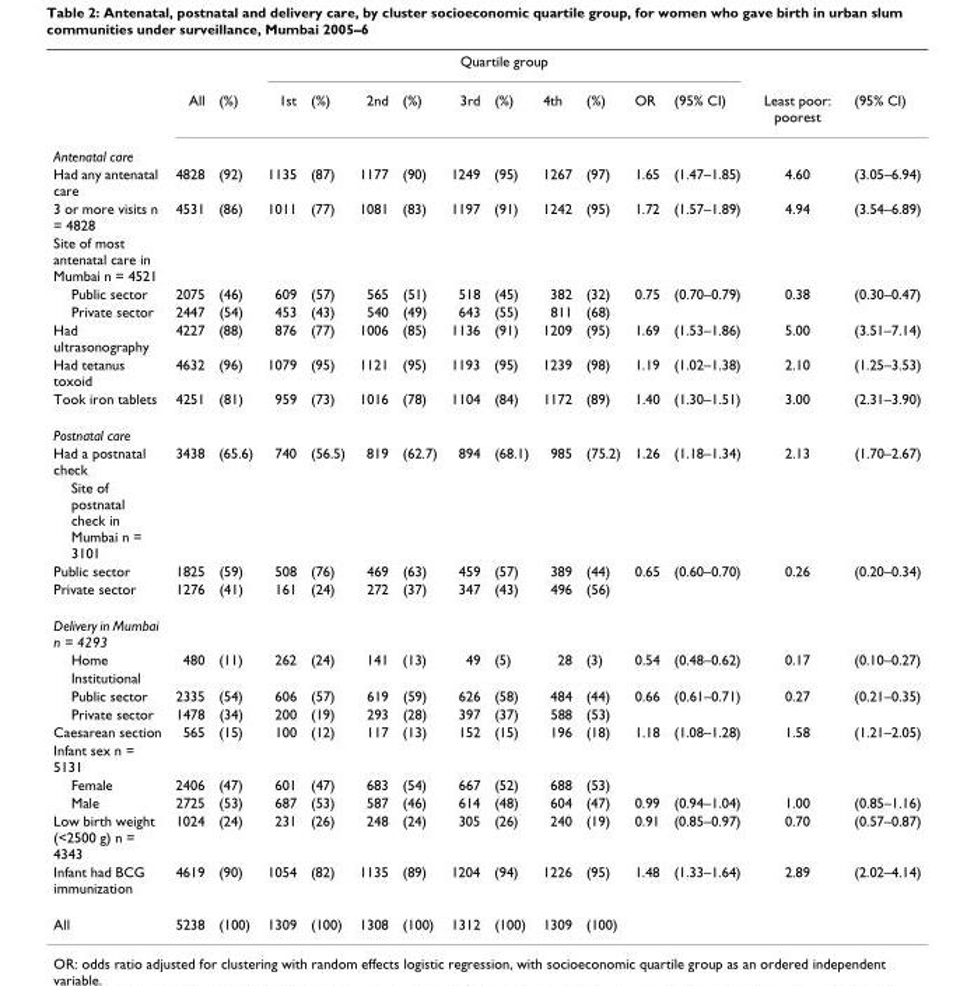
<table><thead><tr><td rowspan="2"></td><td rowspan="2">All</td><td rowspan="2">(%)</td><td colspan="10">Quartile group</td><td rowspan="2">Least poor: poorest</td><td rowspan="2">(95% CI)</td></tr><tr><td>1st</td><td>(%)</td><td>2nd</td><td>(%)</td><td>3rd</td><td>(%)</td><td>4th</td><td>(%)</td><td>OR</td><td>(95% CI)</td></tr></thead><tbody><tr><td colspan="15">Antenatal care</td></tr><tr><td>Had any antenatal care</td><td>4828</td><td>(92)</td><td>1135</td><td>(87)</td><td>1177</td><td>(90)</td><td>1249</td><td>(95)</td><td>1267</td><td>(97)</td><td>1.65</td><td>(1.47–1.85)</td><td>4.60</td><td>(3.05–6.94)</td></tr><tr><td>3 or more visits n = 4828</td><td>4531</td><td>(86)</td><td>1011</td><td>(77)</td><td>1081</td><td>(83)</td><td>1197</td><td>(91)</td><td>1242</td><td>(95)</td><td>1.72</td><td>(1.57–1.89)</td><td>4.94</td><td>(3.54–6.89)</td></tr><tr><td colspan="15">Site of most antenatal care in Mumbai n = 4521</td></tr><tr><td>Public sector</td><td>2075</td><td>(46)</td><td>609</td><td>(57)</td><td>565</td><td>(51)</td><td>518</td><td>(45)</td><td>382</td><td>(32)</td><td>0.75</td><td>(0.70–0.79)</td><td>0.38</td><td>(0.30–0.47)</td></tr><tr><td>Private sector</td><td>2447</td><td>(54)</td><td>453</td><td>(43)</td><td>540</td><td>(49)</td><td>643</td><td>(55)</td><td>811</td><td>(68)</td><td></td><td></td><td></td><td></td></tr><tr><td>Had ultrasonography</td><td>4227</td><td>(88)</td><td>876</td><td>(77)</td><td>1006</td><td>(85)</td><td>1136</td><td>(91)</td><td>1209</td><td>(95)</td><td>1.69</td><td>(1.53–1.86)</td><td>5.00</td><td>(3.51–7.14)</td></tr><tr><td>Had tetanus toxoid</td><td>4632</td><td>(96)</td><td>1079</td><td>(95)</td><td>1121</td><td>(95)</td><td>1193</td><td>(95)</td><td>1239</td><td>(98)</td><td>1.19</td><td>(1.02–1.38)</td><td>2.10</td><td>(1.25–3.53)</td></tr><tr><td>Took iron tablets</td><td>4251</td><td>(81)</td><td>959</td><td>(73)</td><td>1016</td><td>(78)</td><td>1104</td><td>(84)</td><td>1172</td><td>(89)</td><td>1.40</td><td>(1.30–1.51)</td><td>3.00</td><td>(2.31–3.90)</td></tr><tr><td colspan="15">Postnatal care</td></tr><tr><td>Had a postnatal check</td><td>3438</td><td>(65.6)</td><td>740</td><td>(56.5)</td><td>819</td><td>(62.7)</td><td>894</td><td>(68.1)</td><td>985</td><td>(75.2)</td><td>1.26</td><td>(1.18–1.34)</td><td>2.13</td><td>(1.70–2.67)</td></tr><tr><td colspan="15">Site of postnatal check in Mumbai n = 3101</td></tr><tr><td>Public sector</td><td>1825</td><td>(59)</td><td>508</td><td>(76)</td><td>469</td><td>(63)</td><td>459</td><td>(57)</td><td>389</td><td>(44)</td><td>0.65</td><td>(0.60–0.70)</td><td>0.26</td><td>(0.20–0.34)</td></tr><tr><td>Private sector</td><td>1276</td><td>(41)</td><td>161</td><td>(24)</td><td>272</td><td>(37)</td><td>347</td><td>(43)</td><td>496</td><td>(56)</td><td></td><td></td><td></td><td></td></tr><tr><td colspan="15">Delivery in Mumbai n = 4293</td></tr><tr><td>Home</td><td>480</td><td>(11)</td><td>262</td><td>(24)</td><td>141</td><td>(13)</td><td>49</td><td>(5)</td><td>28</td><td>(3)</td><td>0.54</td><td>(0.48–0.62)</td><td>0.17</td><td>(0.10–0.27)</td></tr><tr><td colspan="15">Institutional</td></tr><tr><td>Public sector</td><td>2335</td><td>(54)</td><td>606</td><td>(57)</td><td>619</td><td>(59)</td><td>626</td><td>(58)</td><td>484</td><td>(44)</td><td>0.66</td><td>(0.61–0.71)</td><td>0.27</td><td>(0.21–0.35)</td></tr><tr><td>Private sector</td><td>1478</td><td>(34)</td><td>200</td><td>(19)</td><td>293</td><td>(28)</td><td>397</td><td>(37)</td><td>588</td><td>(53)</td><td></td><td></td><td></td><td></td></tr><tr><td>Caesarean section</td><td>565</td><td>(15)</td><td>100</td><td>(12)</td><td>117</td><td>(13)</td><td>152</td><td>(15)</td><td>196</td><td>(18)</td><td>1.18</td><td>(1.08–1.28)</td><td>1.58</td><td>(1.21–2.05)</td></tr><tr><td colspan="15">Infant sex n = 5131</td></tr><tr><td>Female</td><td>2406</td><td>(47)</td><td>601</td><td>(47)</td><td>683</td><td>(54)</td><td>667</td><td>(52)</td><td>688</td><td>(53)</td><td></td><td></td><td></td><td></td></tr><tr><td>Male</td><td>2725</td><td>(53)</td><td>687</td><td>(53)</td><td>587</td><td>(46)</td><td>614</td><td>(48)</td><td>604</td><td>(47)</td><td>0.99</td><td>(0.94–1.04)</td><td>1.00</td><td>(0.85–1.16)</td></tr><tr><td>Low birth weight (&lt;2500 g) n = 4343</td><td>1024</td><td>(24)</td><td>231</td><td>(26)</td><td>248</td><td>(24)</td><td>305</td><td>(26)</td><td>240</td><td>(19)</td><td>0.91</td><td>(0.85–0.97)</td><td>0.70</td><td>(0.57–0.87)</td></tr><tr><td>Infant had BCG immunization</td><td>4619</td><td>(90)</td><td>1054</td><td>(82)</td><td>1135</td><td>(89)</td><td>1204</td><td>(94)</td><td>1226</td><td>(95)</td><td>1.48</td><td>(1.33–1.64)</td><td>2.89</td><td>(2.02–4.14)</td></tr><tr><td>All</td><td>5238</td><td>(100)</td><td>1309</td><td>(100)</td><td>1308</td><td>(100)</td><td>1312</td><td>(100)</td><td>1309</td><td>(100)</td><td></td><td></td><td></td><td></td></tr></tbody></table>